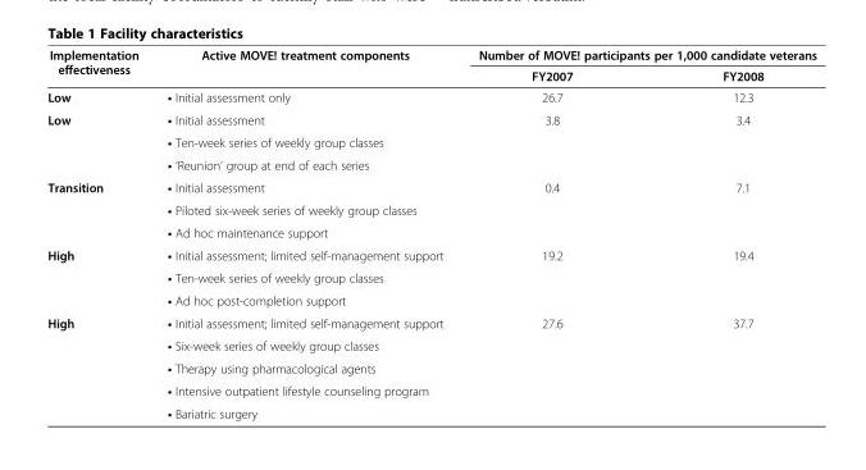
<table><thead><tr><td rowspan="2">Implementation effectiveness</td><td rowspan="2">Active MOVE! treatment components</td><td colspan="2">Number of MOVE! participants per 1,000 candidate veterans</td></tr><tr><td>FY2007</td><td>FY2008</td></tr></thead><tbody><tr><td>Low</td><td>• Initial assessment only</td><td>26.7</td><td>12.3</td></tr><tr><td rowspan="3">Low</td><td>• Initial assessment</td><td rowspan="3">3.8</td><td rowspan="3">3.4</td></tr><tr><td>• Ten-week series of weekly group classes</td></tr><tr><td>• ‘Reunion’ group at end of each series</td></tr><tr><td rowspan="3">Transition</td><td>• Initial assessment</td><td rowspan="3">0.4</td><td rowspan="3">7.1</td></tr><tr><td>• Piloted six-week series of weekly group classes</td></tr><tr><td>• Ad hoc maintenance support</td></tr><tr><td rowspan="3">High</td><td>• Initial assessment; limited self-management support</td><td rowspan="3">19.2</td><td rowspan="3">19.4</td></tr><tr><td>• Ten-week series of weekly group classes</td></tr><tr><td>• Ad hoc post-completion support</td></tr><tr><td rowspan="5">High</td><td>• Initial assessment; limited self-management support</td><td rowspan="5">27.6</td><td rowspan="5">37.7</td></tr><tr><td>• Six-week series of weekly group classes</td></tr><tr><td>• Therapy using pharmacological agents</td></tr><tr><td>• Intensive outpatient lifestyle counseling program</td></tr><tr><td>• Bariatric surgery</td></tr></tbody></table>